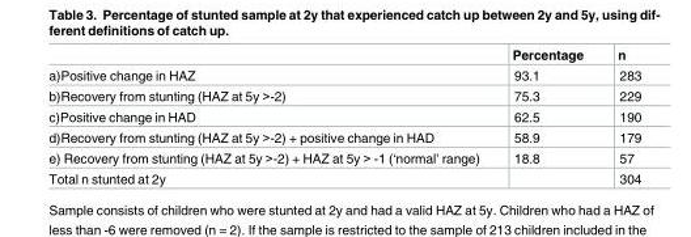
<table><thead><tr><td></td><td>Percentage</td><td>n</td></tr></thead><tbody><tr><td>a)Positive change in HAZ</td><td>93.1</td><td>283</td></tr><tr><td>b)Recovery from stunting (HAZ at 5y &gt;-2)</td><td>75.3</td><td>229</td></tr><tr><td>c)Positive change in HAD</td><td>62.5</td><td>190</td></tr><tr><td>d)Recovery from stunting (HAZ at 5y &gt;-2) + positive change in HAD</td><td>58.9</td><td>179</td></tr><tr><td>e) Recovery from stunting (HAZ at 5y &gt;-2) + HAZ at 5y &gt; -1 (‘normal’ range)</td><td>18.8</td><td>57</td></tr><tr><td>Total n stunted at 2y</td><td></td><td>304</td></tr></tbody></table>